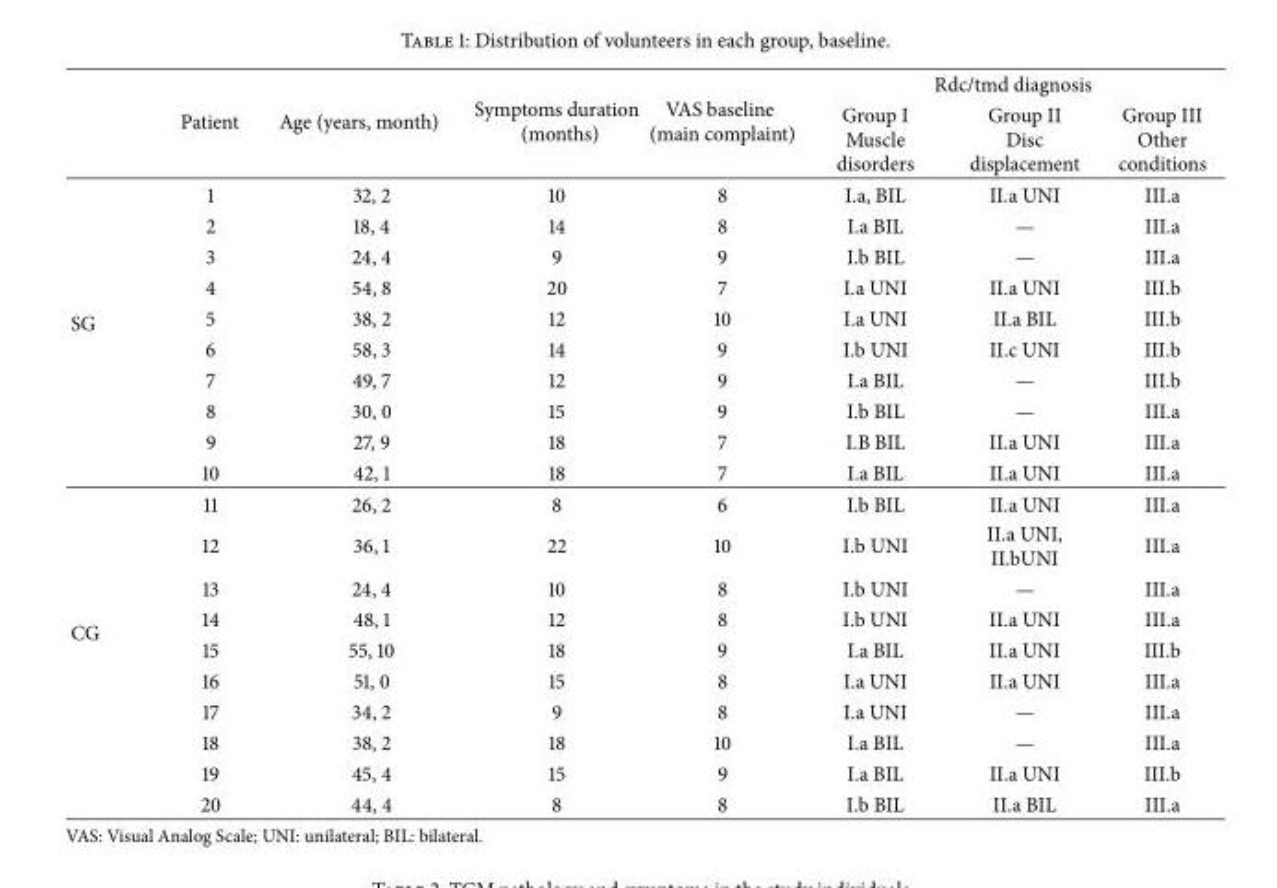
<table><thead><tr><td rowspan="2"></td><td rowspan="2">Patient</td><td rowspan="2">Age (years, month)</td><td rowspan="2">Symptoms duration (months)</td><td rowspan="2">VAS baseline (main complaint)</td><td colspan="3">Rdc/tmd diagnosis</td></tr><tr><td>Group I Muscle disorders</td><td>Group II Disc displacement</td><td>Group III Other conditions</td></tr></thead><tbody><tr><td rowspan="10">SG</td><td>1</td><td>32, 2</td><td>10</td><td>8</td><td>I.a, BIL</td><td>II.a UNI</td><td>III.a</td></tr><tr><td>2</td><td>18, 4</td><td>14</td><td>8</td><td>I.a BIL</td><td>—</td><td>III.a</td></tr><tr><td>3</td><td>24, 4</td><td>9</td><td>9</td><td>I.b BIL</td><td>—</td><td>III.a</td></tr><tr><td>4</td><td>54, 8</td><td>20</td><td>7</td><td>I.a UNI</td><td>II.a UNI</td><td>III.b</td></tr><tr><td>5</td><td>38, 2</td><td>12</td><td>10</td><td>I.a UNI</td><td>II.a BIL</td><td>III.b</td></tr><tr><td>6</td><td>58, 3</td><td>14</td><td>9</td><td>I.b UNI</td><td>II.c UNI</td><td>III.b</td></tr><tr><td>7</td><td>49, 7</td><td>12</td><td>9</td><td>I.a BIL</td><td>—</td><td>III.b</td></tr><tr><td>8</td><td>30, 0</td><td>15</td><td>9</td><td>I.b BIL</td><td>—</td><td>III.a</td></tr><tr><td>9</td><td>27, 9</td><td>18</td><td>7</td><td>I.B BIL</td><td>II.a UNI</td><td>III.a</td></tr><tr><td>10</td><td>42, 1</td><td>18</td><td>7</td><td>I.a BIL</td><td>II.a UNI</td><td>III.a</td></tr><tr><td rowspan="10">CG</td><td>11</td><td>26, 2</td><td>8</td><td>6</td><td>I.b BIL</td><td>II.a UNI</td><td>III.a</td></tr><tr><td>12</td><td>36, 1</td><td>22</td><td>10</td><td>I.b UNI</td><td>II.a UNI, II.bUNI</td><td>III.a</td></tr><tr><td>13</td><td>24, 4</td><td>10</td><td>8</td><td>I.b UNI</td><td>—</td><td>III.a</td></tr><tr><td>14</td><td>48, 1</td><td>12</td><td>8</td><td>I.b UNI</td><td>II.a UNI</td><td>III.a</td></tr><tr><td>15</td><td>55, 10</td><td>18</td><td>9</td><td>I.a BIL</td><td>II.a UNI</td><td>III.b</td></tr><tr><td>16</td><td>51, 0</td><td>15</td><td>8</td><td>I.a UNI</td><td>II.a UNI</td><td>III.a</td></tr><tr><td>17</td><td>34, 2</td><td>9</td><td>8</td><td>I.a UNI</td><td>—</td><td>III.a</td></tr><tr><td>18</td><td>38, 2</td><td>18</td><td>10</td><td>I.a BIL</td><td>—</td><td>III.a</td></tr><tr><td>19</td><td>45, 4</td><td>15</td><td>9</td><td>I.a BIL</td><td>II.a UNI</td><td>III.b</td></tr><tr><td>20</td><td>44, 4</td><td>8</td><td>8</td><td>I.b BIL</td><td>II.a BIL</td><td>III.a</td></tr></tbody></table>